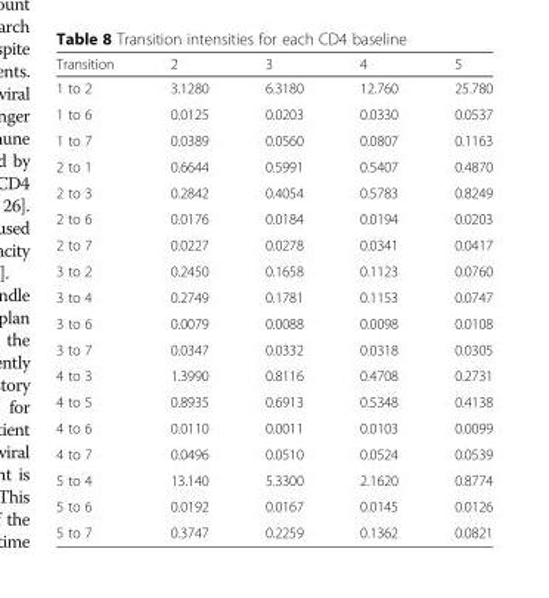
<table><thead><tr><td>Transition</td><td>2</td><td>3</td><td>4</td><td>5</td></tr></thead><tbody><tr><td>1 to 2</td><td>3.1280</td><td>6.3180</td><td>12.760</td><td>25.780</td></tr><tr><td>1 to 6</td><td>0.0125</td><td>0.0203</td><td>0.0330</td><td>0.0537</td></tr><tr><td>1 to 7</td><td>0.0389</td><td>0.0560</td><td>0.0807</td><td>0.1163</td></tr><tr><td>2 to 1</td><td>0.6644</td><td>0.5991</td><td>0.5407</td><td>0.4870</td></tr><tr><td>2 to 3</td><td>0.2842</td><td>0.4054</td><td>0.5783</td><td>0.8249</td></tr><tr><td>2 to 6</td><td>0.0176</td><td>0.0184</td><td>0.0194</td><td>0.0203</td></tr><tr><td>2 to 7</td><td>0.0227</td><td>0.0278</td><td>0.0341</td><td>0.0417</td></tr><tr><td>3 to 2</td><td>0.2450</td><td>0.1658</td><td>0.1123</td><td>0.0760</td></tr><tr><td>3 to 4</td><td>0.2749</td><td>0.1781</td><td>0.1153</td><td>0.0747</td></tr><tr><td>3 to 6</td><td>0.0079</td><td>0.0088</td><td>0.0098</td><td>0.0108</td></tr><tr><td>3 to 7</td><td>0.0347</td><td>0.0332</td><td>0.0318</td><td>0.0305</td></tr><tr><td>4 to 3</td><td>1.3990</td><td>0.8116</td><td>0.4708</td><td>0.2731</td></tr><tr><td>4 to 5</td><td>0.8935</td><td>0.6913</td><td>0.5348</td><td>0.4138</td></tr><tr><td>4 to 6</td><td>0.0110</td><td>0.0011</td><td>0.0103</td><td>0.0099</td></tr><tr><td>4 to 7</td><td>0.0496</td><td>0.0510</td><td>0.0524</td><td>0.0539</td></tr><tr><td>5 to 4</td><td>13.140</td><td>5.3300</td><td>2.1620</td><td>0.8774</td></tr><tr><td>5 to 6</td><td>0.0192</td><td>0.0167</td><td>0.0145</td><td>0.0126</td></tr><tr><td>5 to 7</td><td>0.3747</td><td>0.2259</td><td>0.1362</td><td>0.0821</td></tr></tbody></table>